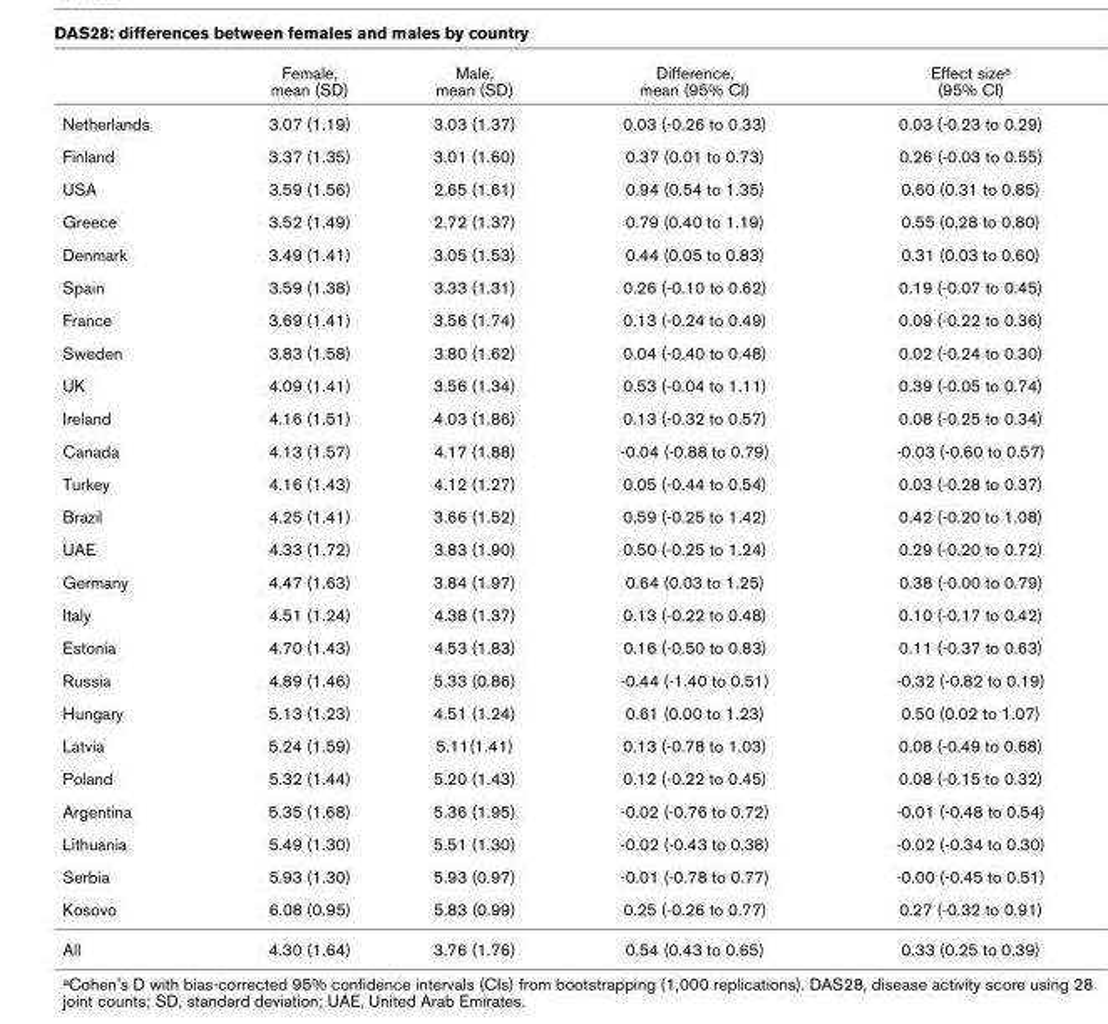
<table><thead><tr><td></td><td>Female, mean (SD)</td><td>Male, mean (SD)</td><td>Difference, mean (95% CI)</td><td>Effect size<sup>a</sup> (95% CI)</td></tr></thead><tbody><tr><td>Netherlands</td><td>3.07 (1.19)</td><td>3.03 (1.37)</td><td>0.03 (-0.26 to 0.33)</td><td>0.03 (-0.23 to 0.29)</td></tr><tr><td>Finland</td><td>3.37 (1.35)</td><td>3.01 (1.60)</td><td>0.37 (0.01 to 0.73)</td><td>0.26 (-0.03 to 0.55)</td></tr><tr><td>USA</td><td>3.59 (1.56)</td><td>2.65 (1.61)</td><td>0.94 (0.54 to 1.35)</td><td>0.60 (0.31 to 0.85)</td></tr><tr><td>Greece</td><td>3.52 (1.49)</td><td>2.72 (1.37)</td><td>0.79 (0.40 to 1.19)</td><td>0.55 (0.28 to 0.80)</td></tr><tr><td>Denmark</td><td>3.49 (1.41)</td><td>3.05 (1.53)</td><td>0.44 (0.05 to 0.83)</td><td>0.31 (0.03 to 0.60)</td></tr><tr><td>Spain</td><td>3.59 (1.38)</td><td>3.33 (1.31)</td><td>0.26 (-0.10 to 0.62)</td><td>0.19 (-0.07 to 0.45)</td></tr><tr><td>France</td><td>3.69 (1.41)</td><td>3.56 (1.74)</td><td>0.13 (-0.24 to 0.49)</td><td>0.09 (-0.22 to 0.36)</td></tr><tr><td>Sweden</td><td>3.83 (1.58)</td><td>3.80 (1.62)</td><td>0.04 (-0.40 to 0.48)</td><td>0.02 (-0.24 to 0.30)</td></tr><tr><td>UK</td><td>4.09 (1.41)</td><td>3.56 (1.34)</td><td>0.53 (-0.04 to 1.11)</td><td>0.39 (-0.05 to 0.74)</td></tr><tr><td>Ireland</td><td>4.16 (1.51)</td><td>4.03 (1.86)</td><td>0.13 (-0.32 to 0.57)</td><td>0.08 (-0.25 to 0.34)</td></tr><tr><td>Canada</td><td>4.13 (1.57)</td><td>4.17 (1.88)</td><td>-0.04 (-0.88 to 0.79)</td><td>-0.03 (-0.60 to 0.57)</td></tr><tr><td>Turkey</td><td>4.16 (1.43)</td><td>4.12 (1.27)</td><td>0.05 (-0.44 to 0.54)</td><td>0.03 (-0.28 to 0.37)</td></tr><tr><td>Brazil</td><td>4.25 (1.41)</td><td>3.66 (1.52)</td><td>0.59 (-0.25 to 1.42)</td><td>0.42 (-0.20 to 1.08)</td></tr><tr><td>UAE</td><td>4.33 (1.72)</td><td>3.83 (1.90)</td><td>0.50 (-0.25 to 1.24)</td><td>0.29 (-0.20 to 0.72)</td></tr><tr><td>Germany</td><td>4.47 (1.63)</td><td>3.84 (1.97)</td><td>0.64 (0.03 to 1.25)</td><td>0.38 (-0.00 to 0.79)</td></tr><tr><td>Italy</td><td>4.51 (1.24)</td><td>4.38 (1.37)</td><td>0.13 (-0.22 to 0.48)</td><td>0.10 (-0.17 to 0.42)</td></tr><tr><td>Estonia</td><td>4.70 (1.43)</td><td>4.53 (1.83)</td><td>0.16 (-0.50 to 0.83)</td><td>0.11 (-0.37 to 0.63)</td></tr><tr><td>Russia</td><td>4.89 (1.46)</td><td>5.33 (0.86)</td><td>-0.44 (-1.40 to 0.51)</td><td>-0.32 (-0.82 to 0.19)</td></tr><tr><td>Hungary</td><td>5.13 (1.23)</td><td>4.51 (1.24)</td><td>0.61 (0.00 to 1.23)</td><td>0.50 (0.02 to 1.07)</td></tr><tr><td>Latvia</td><td>5.24 (1.59)</td><td>5.11(1.41)</td><td>0.13 (-0.78 to 1.03)</td><td>0.08 (-0.49 to 0.68)</td></tr><tr><td>Poland</td><td>5.32 (1.44)</td><td>5.20 (1.43)</td><td>0.12 (-0.22 to 0.45)</td><td>0.08 (-0.15 to 0.32)</td></tr><tr><td>Argentina</td><td>5.35 (1.68)</td><td>5.36 (1.95)</td><td>-0.02 (-0.76 to 0.72)</td><td>-0.01 (-0.48 to 0.54)</td></tr><tr><td>Lithuania</td><td>5.49 (1.30)</td><td>5.51 (1.30)</td><td>-0.02 (-0.43 to 0.38)</td><td>-0.02 (-0.34 to 0.30)</td></tr><tr><td>Serbia</td><td>5.93 (1.30)</td><td>5.93 (0.97)</td><td>-0.01 (-0.78 to 0.77)</td><td>-0.00 (-0.45 to 0.51)</td></tr><tr><td>Kosovo</td><td>6.08 (0.95)</td><td>5.83 (0.99)</td><td>0.25 (-0.26 to 0.77)</td><td>0.27 (-0.32 to 0.91)</td></tr><tr><td>All</td><td>4.30 (1.64)</td><td>3.76 (1.76)</td><td>0.54 (0.43 to 0.65)</td><td>0.33 (0.25 to 0.39)</td></tr></tbody></table>